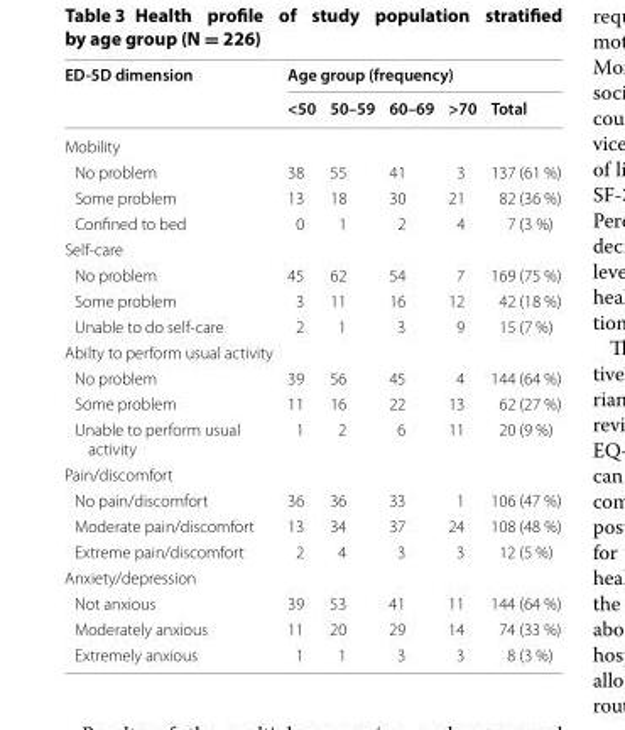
<table><thead><tr><td rowspan="2">ED-5D dimension</td><td colspan="5">Age group (frequency)</td></tr><tr><td>&lt;50</td><td>50–59</td><td>60–69</td><td>&gt;70</td><td>Total</td></tr></thead><tbody><tr><td colspan="6">Mobility</td></tr><tr><td>No problem</td><td>38</td><td>55</td><td>41</td><td>3</td><td>137 (61 %)</td></tr><tr><td>Some problem</td><td>13</td><td>18</td><td>30</td><td>21</td><td>82 (36 %)</td></tr><tr><td>Confined to bed</td><td>0</td><td>1</td><td>2</td><td>4</td><td>7 (3 %)</td></tr><tr><td colspan="6">Self-care</td></tr><tr><td>No problem</td><td>45</td><td>62</td><td>54</td><td>7</td><td>169 (75 %)</td></tr><tr><td>Some problem</td><td>3</td><td>11</td><td>16</td><td>12</td><td>42 (18 %)</td></tr><tr><td>Unable to do self-care</td><td>2</td><td>1</td><td>3</td><td>9</td><td>15 (7 %)</td></tr><tr><td colspan="6">Abilty to perform usual activity</td></tr><tr><td>No problem</td><td>39</td><td>56</td><td>45</td><td>4</td><td>144 (64 %)</td></tr><tr><td>Some problem</td><td>11</td><td>16</td><td>22</td><td>13</td><td>62 (27 %)</td></tr><tr><td>Unable to perform usual activity</td><td>1</td><td>2</td><td>6</td><td>11</td><td>20 (9 %)</td></tr><tr><td colspan="6">Pain/discomfort</td></tr><tr><td>No pain/discomfort</td><td>36</td><td>36</td><td>33</td><td>1</td><td>106 (47 %)</td></tr><tr><td>Moderate pain/discomfort</td><td>13</td><td>34</td><td>37</td><td>24</td><td>108 (48 %)</td></tr><tr><td>Extreme pain/discomfort</td><td>2</td><td>4</td><td>3</td><td>3</td><td>12 (5 %)</td></tr><tr><td colspan="6">Anxiety/depression</td></tr><tr><td>Not anxious</td><td>39</td><td>53</td><td>41</td><td>11</td><td>144 (64 %)</td></tr><tr><td>Moderately anxious</td><td>11</td><td>20</td><td>29</td><td>14</td><td>74 (33 %)</td></tr><tr><td>Extremely anxious</td><td>1</td><td>1</td><td>3</td><td>3</td><td>8 (3 %)</td></tr></tbody></table>